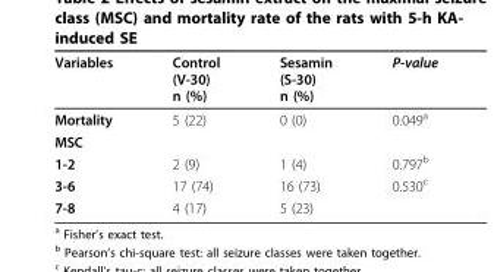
<table><thead><tr><td>Variables</td><td>Control (V-30) n (%)</td><td>Sesamin (S-30) n (%)</td><td>P-value</td></tr></thead><tbody><tr><td>Mortality</td><td>5 (22)</td><td>0 (0)</td><td>0.049<sup>a</sup></td></tr><tr><td colspan="4">MSC</td></tr><tr><td>1-2</td><td>2 (9)</td><td>1 (4)</td><td>0.797<sup>b</sup></td></tr><tr><td>3-6</td><td>17 (74)</td><td>16 (73)</td><td>0.530<sup>c</sup></td></tr><tr><td>7-8</td><td>4 (17)</td><td>5 (23)</td><td></td></tr></tbody></table>